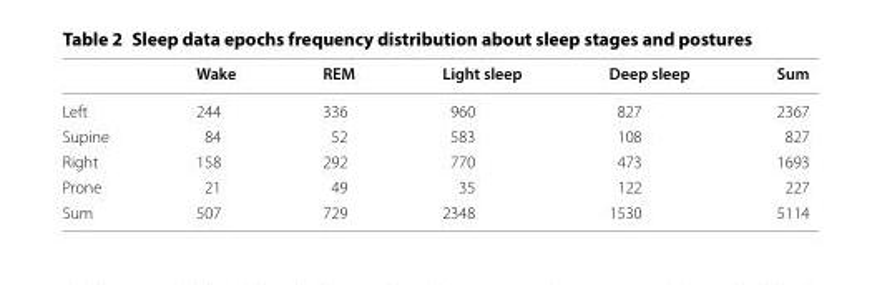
<table><thead><tr><td></td><td>Wake</td><td>REM</td><td>Light sleep</td><td>Deep sleep</td><td>Sum</td></tr></thead><tbody><tr><td>Left</td><td>244</td><td>336</td><td>960</td><td>827</td><td>2367</td></tr><tr><td>Supine</td><td>84</td><td>52</td><td>583</td><td>108</td><td>827</td></tr><tr><td>Right</td><td>158</td><td>292</td><td>770</td><td>473</td><td>1693</td></tr><tr><td>Prone</td><td>21</td><td>49</td><td>35</td><td>122</td><td>227</td></tr><tr><td>Sum</td><td>507</td><td>729</td><td>2348</td><td>1530</td><td>5114</td></tr></tbody></table>